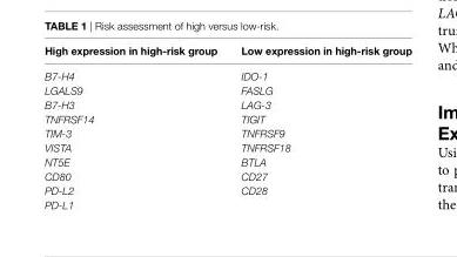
<table><thead><tr><td>high expression in high-risk group</td><td>low expression in high-risk group</td></tr></thead><tbody><tr><td>B7-H4</td><td>IDO-1</td></tr><tr><td>LGALS9</td><td>FASLG</td></tr><tr><td>B7-H3</td><td>LAG-3</td></tr><tr><td>TNFRSF14</td><td>TIGIT</td></tr><tr><td>TIM-3</td><td>TNFRSF9</td></tr><tr><td>VISTA</td><td>TNFRSF18</td></tr><tr><td>NT5E</td><td>BTLA</td></tr><tr><td>CD80</td><td>CD27</td></tr><tr><td>PD-L2</td><td>CD28</td></tr><tr><td>PD-L1</td><td></td></tr></tbody></table>